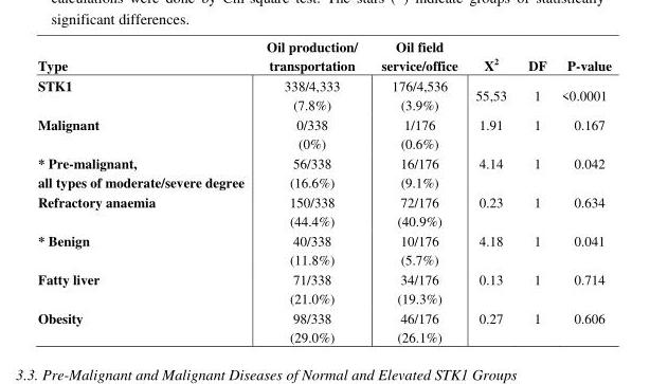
<table><thead><tr><td>Type</td><td>Oil production/ transportation</td><td>Oil field service/office</td><td>X<sup>2</sup></td><td>DF</td><td>P-value</td></tr></thead><tbody><tr><td>STK1</td><td>338/4,333 (7.8%)</td><td>176/4,536 (3.9%)</td><td>55,53</td><td>1</td><td>&lt;0.0001</td></tr><tr><td>Malignant</td><td>0/338 (0%)</td><td>1/176 (0.6%)</td><td>1.91</td><td>1</td><td>0.167</td></tr><tr><td>* Pre-malignant, all types of moderate/severe degree</td><td>56/338 (16.6%)</td><td>16/176 (9.1%)</td><td>4.14</td><td>1</td><td>0.042</td></tr><tr><td>Refractory anaemia</td><td>150/338 (44.4%)</td><td>72/176 (40.9%)</td><td>0.23</td><td>1</td><td>0.634</td></tr><tr><td>* Benign</td><td>40/338 (11.8%)</td><td>10/176 (5.7%)</td><td>4.18</td><td>1</td><td>0.041</td></tr><tr><td>Fatty liver</td><td>71/338 (21.0%)</td><td>34/176 (19.3%)</td><td>0.13</td><td>1</td><td>0.714</td></tr><tr><td>Obesity</td><td>98/338 (29.0%)</td><td>46/176 (26.1%)</td><td>0.27</td><td>1</td><td>0.606</td></tr></tbody></table>